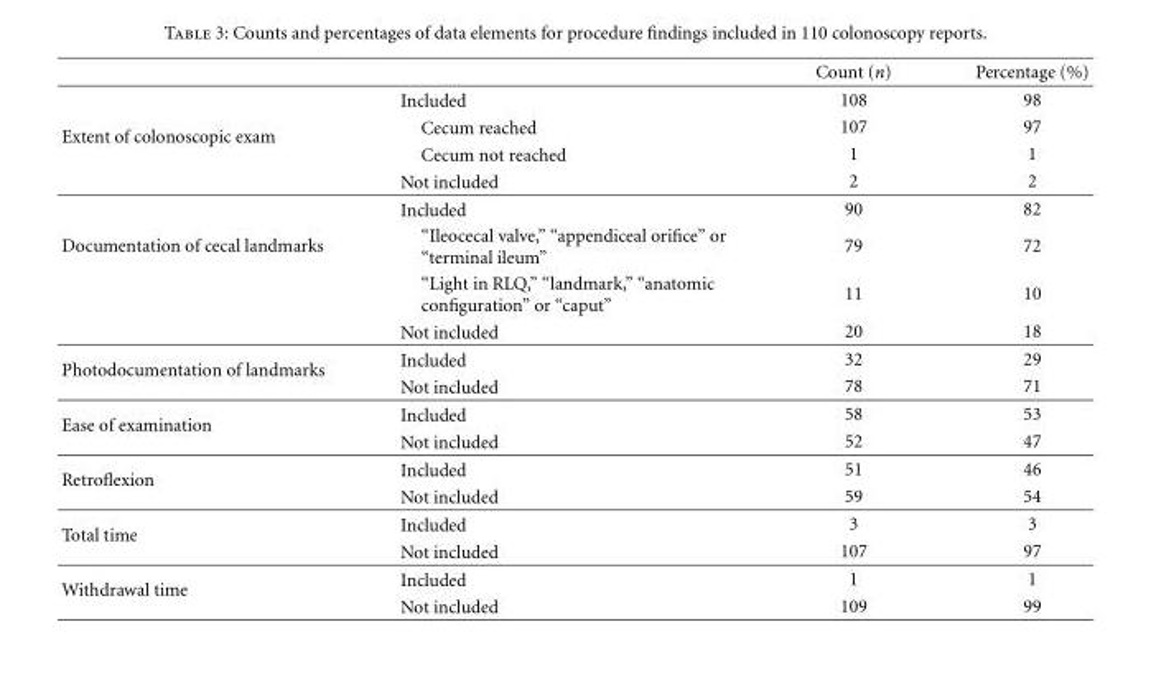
<table><thead><tr><td></td><td></td><td>Count (n)</td><td>Percentage (%)</td></tr></thead><tbody><tr><td rowspan="4">Extent of colonoscopic exam</td><td>Included</td><td>108</td><td>98</td></tr><tr><td>Cecum reached</td><td>107</td><td>97</td></tr><tr><td>Cecum not reached</td><td>1</td><td>1</td></tr><tr><td>Not included</td><td>2</td><td>2</td></tr><tr><td rowspan="4">Documentation of cecal landmarks</td><td>Included</td><td>90</td><td>82</td></tr><tr><td>“Ileocecal valve,” “appendiceal orifice” or “terminal ileum”</td><td>79</td><td>72</td></tr><tr><td>“Light in RLQ,” “landmark,” “anatomic configuration” or “caput”</td><td>11</td><td>10</td></tr><tr><td>Not included</td><td>20</td><td>18</td></tr><tr><td rowspan="2">Photodocumentation of landmarks</td><td>Included</td><td>32</td><td>29</td></tr><tr><td>Not included</td><td>78</td><td>71</td></tr><tr><td rowspan="2">Ease of examination</td><td>Included</td><td>58</td><td>53</td></tr><tr><td>Not included</td><td>52</td><td>47</td></tr><tr><td rowspan="2">Retroflexion</td><td>Included</td><td>51</td><td>46</td></tr><tr><td>Not included</td><td>59</td><td>54</td></tr><tr><td rowspan="2">Total time</td><td>Included</td><td>3</td><td>3</td></tr><tr><td>Not included</td><td>107</td><td>97</td></tr><tr><td rowspan="2">Withdrawal time</td><td>Included</td><td>1</td><td>1</td></tr><tr><td>Not included</td><td>109</td><td>99</td></tr></tbody></table>